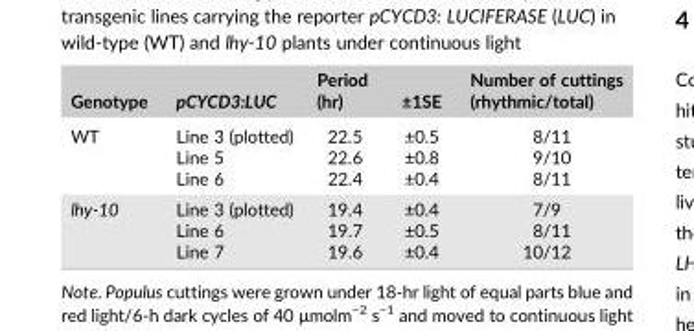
<table><thead><tr><td>Genotype</td><td>pCYCD3:LUC</td><td>Period (hr)</td><td>±1SE</td><td>Number of cuttings (rhythmic/total)</td></tr></thead><tbody><tr><td rowspan="3">WT</td><td>Line 3 (plotted)</td><td>22.5</td><td>±0.5</td><td>8/11</td></tr><tr><td>Line 5</td><td>22.6</td><td>±0.8</td><td>9/10</td></tr><tr><td>Line 6</td><td>22.4</td><td>±0.4</td><td>8/11</td></tr><tr><td rowspan="3">lhy‐10</td><td>Line 3 (plotted)</td><td>19.4</td><td>±0.4</td><td>7/9</td></tr><tr><td>Line 6</td><td>19.7</td><td>±0.5</td><td>8/11</td></tr><tr><td>Line 7</td><td>19.6</td><td>±0.4</td><td>10/12</td></tr></tbody></table>